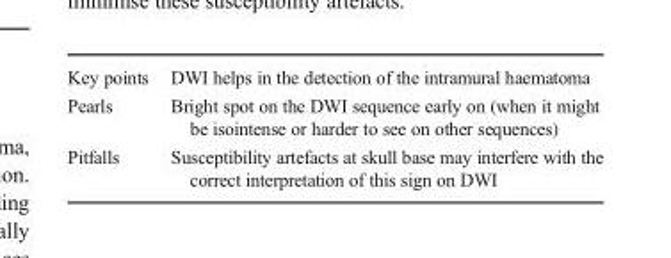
<table><tbody><tr><td>Key points</td><td>DWI helps in the detection of the intramural haematoma</td></tr><tr><td>Pearls</td><td>Bright spot on the DWI sequence early on (when it might be isointense or harder to see on other sequences)</td></tr><tr><td>Pitfalls</td><td>Susceptibility artefacts at skull base may interfere with the correct interpretation of this sign on DWI</td></tr></tbody></table>